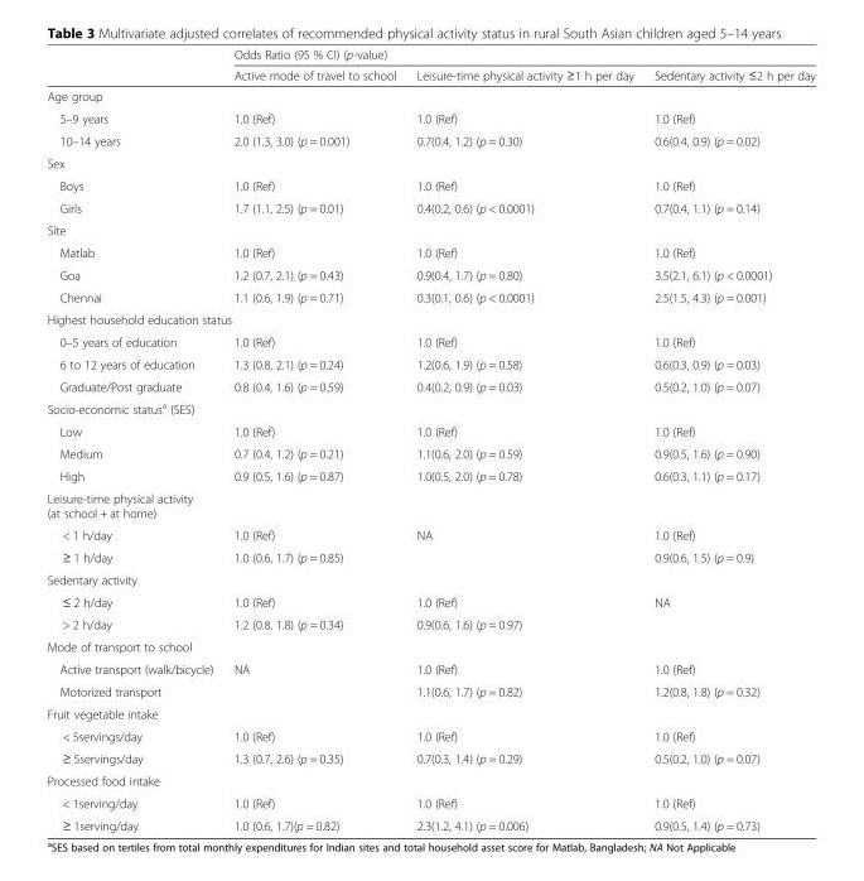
<table><thead><tr><td rowspan="2"></td><td colspan="3">Odds Ratio (95 % CI) (p-value)</td></tr><tr><td>Active mode of travel to school</td><td>Leisure-time physical activity ≥1 h per day</td><td>Sedentary activity ≤2 h per day</td></tr></thead><tbody><tr><td colspan="4">Age group</td></tr><tr><td>5–9 years</td><td>1.0 (Ref)</td><td>1.0 (Ref)</td><td>1.0 (Ref)</td></tr><tr><td>10–14 years</td><td>2.0 (1.3, 3.0) (p = 0.001)</td><td>0.7(0.4, 1.2) (p = 0.30)</td><td>0.6(0.4, 0.9) (p = 0.02)</td></tr><tr><td colspan="4">Sex</td></tr><tr><td>Boys</td><td>1.0 (Ref)</td><td>1.0 (Ref)</td><td>1.0 (Ref)</td></tr><tr><td>Girls</td><td>1.7 (1.1, 2.5) (p = 0.01)</td><td>0.4(0.2, 0.6) (p &lt; 0.0001)</td><td>0.7(0.4, 1.1) (p = 0.14)</td></tr><tr><td colspan="4">Site</td></tr><tr><td>Matlab</td><td>1.0 (Ref)</td><td>1.0 (Ref)</td><td>1.0 (Ref)</td></tr><tr><td>Goa</td><td>1.2 (0.7, 2.1) (p = 0.43)</td><td>0.9(0.4, 1.7) (p = 0.80)</td><td>3.5(2.1, 6.1) (p &lt; 0.0001)</td></tr><tr><td>Chennai</td><td>1.1 (0.6, 1.9) (p = 0.71)</td><td>0.3(0.1, 0.6) (p &lt; 0.0001)</td><td>2.5(1.5, 4.3) (p = 0.001)</td></tr><tr><td colspan="4">Highest household education status</td></tr><tr><td>0–5 years of education</td><td>1.0 (Ref)</td><td>1.0 (Ref)</td><td>1.0 (Ref)</td></tr><tr><td>6 to 12 years of education</td><td>1.3 (0.8, 2.1) (p = 0.24)</td><td>1.2(0.6, 1.9) (p = 0.58)</td><td>0.6(0.3, 0.9) (p = 0.03)</td></tr><tr><td>Graduate/Post graduate</td><td>0.8 (0.4, 1.6) (p = 0.59)</td><td>0.4(0.2, 0.9) (p = 0.03)</td><td>0.5(0.2, 1.0) (p = 0.07)</td></tr><tr><td colspan="4">Socio-economic status<sup>a</sup> (SES)</td></tr><tr><td>Low</td><td>1.0 (Ref)</td><td>1.0 (Ref)</td><td>1.0 (Ref)</td></tr><tr><td>Medium</td><td>0.7 (0.4, 1.2) (p = 0.21)</td><td>1.1(0.6, 2.0) (p = 0.59)</td><td>0.9(0.5, 1.6) (p = 0.90)</td></tr><tr><td>High</td><td>0.9 (0.5, 1.6) (p = 0.87)</td><td>1.0(0.5, 2.0) (p = 0.78)</td><td>0.6(0.3, 1.1) (p = 0.17)</td></tr><tr><td colspan="4">Leisure-time physical activity (at school + at home)</td></tr><tr><td>&lt; 1 h/day</td><td>1.0 (Ref)</td><td>NA</td><td>1.0 (Ref)</td></tr><tr><td>≥ 1 h/day</td><td>1.0 (0.6, 1.7) (p = 0.85)</td><td></td><td>0.9(0.6, 1.5) (p = 0.9)</td></tr><tr><td colspan="4">Sedentary activity</td></tr><tr><td>≤ 2 h/day</td><td>1.0 (Ref)</td><td>1.0 (Ref)</td><td rowspan="2">NA</td></tr><tr><td>&gt; 2 h/day</td><td>1.2 (0.8, 1.8) (p = 0.34)</td><td>0.9(0.6, 1.6) (p = 0.97)</td></tr><tr><td colspan="4">Mode of transport to school</td></tr><tr><td>Active transport (walk/bicycle)</td><td>NA</td><td>1.0 (Ref)</td><td>1.0 (Ref)</td></tr><tr><td>Motorized transport</td><td></td><td>1.1(0.6, 1.7) (p = 0.82)</td><td>1.2(0.8, 1.8) (p = 0.32)</td></tr><tr><td colspan="4">Fruit vegetable intake</td></tr><tr><td>&lt; 5servings/day</td><td>1.0 (Ref)</td><td>1.0 (Ref)</td><td>1.0 (Ref)</td></tr><tr><td>≥ 5servings/day</td><td>1.3 (0.7, 2.6) (p = 0.35)</td><td>0.7(0.3, 1.4) (p = 0.29)</td><td>0.5(0.2, 1.0) (p = 0.07)</td></tr><tr><td colspan="4">Processed food intake</td></tr><tr><td>&lt; 1serving/day</td><td>1.0 (Ref)</td><td>1.0 (Ref)</td><td>1.0 (Ref)</td></tr><tr><td>≥ 1serving/day</td><td>1.0 (0.6, 1.7)(p = 0.82)</td><td>2.3(1.2, 4.1) (p = 0.006)</td><td>0.9(0.5, 1.4) (p = 0.73)</td></tr></tbody></table>